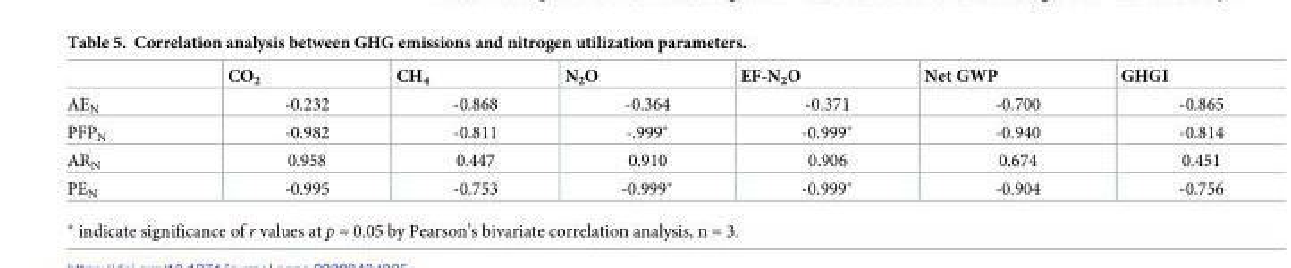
<table><thead><tr><td></td><td>CO<sub>2</sub></td><td>CH<sub>4</sub></td><td>N<sub>2</sub>O</td><td>EF-N<sub>2</sub>O</td><td>Net GWP</td><td>GHGI</td></tr></thead><tbody><tr><td>AE<sub>N</sub></td><td>-0.232</td><td>-0.868</td><td>-0.364</td><td>-0.371</td><td>-0.700</td><td>-0.865</td></tr><tr><td>PFP<sub>N</sub></td><td>-0.982</td><td>-0.811</td><td>-.999*</td><td>-0.999*</td><td>-0.940</td><td>-0.814</td></tr><tr><td>AR<sub>N</sub></td><td>0.958</td><td>0.447</td><td>0.910</td><td>0.906</td><td>0.674</td><td>0.451</td></tr><tr><td>PE<sub>N</sub></td><td>-0.995</td><td>-0.753</td><td>-0.999*</td><td>-0.999*</td><td>-0.904</td><td>-0.756</td></tr></tbody></table>